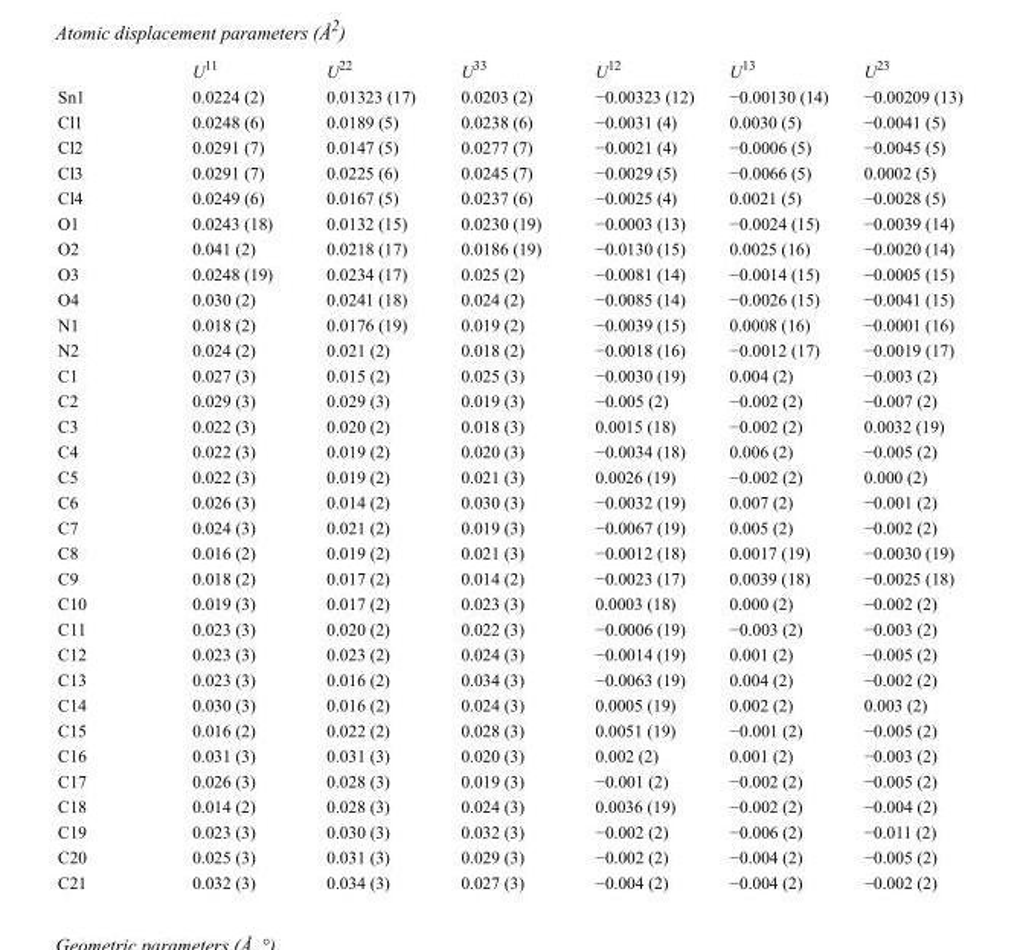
<table><thead><tr><td></td><td>U<sup>11</sup></td><td>U<sup>22</sup></td><td>U<sup>33</sup></td><td>U<sup>12</sup></td><td>U<sup>13</sup></td><td>U<sup>23</sup></td></tr></thead><tbody><tr><td>Sn1</td><td>0.0224 (2)</td><td>0.01323 (17)</td><td>0.0203 (2)</td><td>−0.00323 (12)</td><td>−0.00130 (14)</td><td>−0.00209 (13)</td></tr><tr><td>Cl1</td><td>0.0248 (6)</td><td>0.0189 (5)</td><td>0.0238 (6)</td><td>−0.0031 (4)</td><td>0.0030 (5)</td><td>−0.0041 (5)</td></tr><tr><td>Cl2</td><td>0.0291 (7)</td><td>0.0147 (5)</td><td>0.0277 (7)</td><td>−0.0021 (4)</td><td>−0.0006 (5)</td><td>−0.0045 (5)</td></tr><tr><td>Cl3</td><td>0.0291 (7)</td><td>0.0225 (6)</td><td>0.0245 (7)</td><td>−0.0029 (5)</td><td>−0.0066 (5)</td><td>0.0002 (5)</td></tr><tr><td>Cl4</td><td>0.0249 (6)</td><td>0.0167 (5)</td><td>0.0237 (6)</td><td>−0.0025 (4)</td><td>0.0021 (5)</td><td>−0.0028 (5)</td></tr><tr><td>O1</td><td>0.0243 (18)</td><td>0.0132 (15)</td><td>0.0230 (19)</td><td>−0.0003 (13)</td><td>−0.0024 (15)</td><td>−0.0039 (14)</td></tr><tr><td>O2</td><td>0.041 (2)</td><td>0.0218 (17)</td><td>0.0186 (19)</td><td>−0.0130 (15)</td><td>0.0025 (16)</td><td>−0.0020 (14)</td></tr><tr><td>O3</td><td>0.0248 (19)</td><td>0.0234 (17)</td><td>0.025 (2)</td><td>−0.0081 (14)</td><td>−0.0014 (15)</td><td>−0.0005 (15)</td></tr><tr><td>O4</td><td>0.030 (2)</td><td>0.0241 (18)</td><td>0.024 (2)</td><td>−0.0085 (14)</td><td>−0.0026 (15)</td><td>−0.0041 (15)</td></tr><tr><td>N1</td><td>0.018 (2)</td><td>0.0176 (19)</td><td>0.019 (2)</td><td>−0.0039 (15)</td><td>0.0008 (16)</td><td>−0.0001 (16)</td></tr><tr><td>N2</td><td>0.024 (2)</td><td>0.021 (2)</td><td>0.018 (2)</td><td>−0.0018 (16)</td><td>−0.0012 (17)</td><td>−0.0019 (17)</td></tr><tr><td>C1</td><td>0.027 (3)</td><td>0.015 (2)</td><td>0.025 (3)</td><td>−0.0030 (19)</td><td>0.004 (2)</td><td>−0.003 (2)</td></tr><tr><td>C2</td><td>0.029 (3)</td><td>0.029 (3)</td><td>0.019 (3)</td><td>−0.005 (2)</td><td>−0.002 (2)</td><td>−0.007 (2)</td></tr><tr><td>C3</td><td>0.022 (3)</td><td>0.020 (2)</td><td>0.018 (3)</td><td>0.0015 (18)</td><td>−0.002 (2)</td><td>0.0032 (19)</td></tr><tr><td>C4</td><td>0.022 (3)</td><td>0.019 (2)</td><td>0.020 (3)</td><td>−0.0034 (18)</td><td>0.006 (2)</td><td>−0.005 (2)</td></tr><tr><td>C5</td><td>0.022 (3)</td><td>0.019 (2)</td><td>0.021 (3)</td><td>0.0026 (19)</td><td>−0.002 (2)</td><td>0.000 (2)</td></tr><tr><td>C6</td><td>0.026 (3)</td><td>0.014 (2)</td><td>0.030 (3)</td><td>−0.0032 (19)</td><td>0.007 (2)</td><td>−0.001 (2)</td></tr><tr><td>C7</td><td>0.024 (3)</td><td>0.021 (2)</td><td>0.019 (3)</td><td>−0.0067 (19)</td><td>0.005 (2)</td><td>−0.002 (2)</td></tr><tr><td>C8</td><td>0.016 (2)</td><td>0.019 (2)</td><td>0.021 (3)</td><td>−0.0012 (18)</td><td>0.0017 (19)</td><td>−0.0030 (19)</td></tr><tr><td>C9</td><td>0.018 (2)</td><td>0.017 (2)</td><td>0.014 (2)</td><td>−0.0023 (17)</td><td>0.0039 (18)</td><td>−0.0025 (18)</td></tr><tr><td>C10</td><td>0.019 (3)</td><td>0.017 (2)</td><td>0.023 (3)</td><td>0.0003 (18)</td><td>0.000 (2)</td><td>−0.002 (2)</td></tr><tr><td>C11</td><td>0.023 (3)</td><td>0.020 (2)</td><td>0.022 (3)</td><td>−0.0006 (19)</td><td>−0.003 (2)</td><td>−0.003 (2)</td></tr><tr><td>C12</td><td>0.023 (3)</td><td>0.023 (2)</td><td>0.024 (3)</td><td>−0.0014 (19)</td><td>0.001 (2)</td><td>−0.005 (2)</td></tr><tr><td>C13</td><td>0.023 (3)</td><td>0.016 (2)</td><td>0.034 (3)</td><td>−0.0063 (19)</td><td>0.004 (2)</td><td>−0.002 (2)</td></tr><tr><td>C14</td><td>0.030 (3)</td><td>0.016 (2)</td><td>0.024 (3)</td><td>0.0005 (19)</td><td>0.002 (2)</td><td>0.003 (2)</td></tr><tr><td>C15</td><td>0.016 (2)</td><td>0.022 (2)</td><td>0.028 (3)</td><td>0.0051 (19)</td><td>−0.001 (2)</td><td>−0.005 (2)</td></tr><tr><td>C16</td><td>0.031 (3)</td><td>0.031 (3)</td><td>0.020 (3)</td><td>0.002 (2)</td><td>0.001 (2)</td><td>−0.003 (2)</td></tr><tr><td>C17</td><td>0.026 (3)</td><td>0.028 (3)</td><td>0.019 (3)</td><td>−0.001 (2)</td><td>−0.002 (2)</td><td>−0.005 (2)</td></tr><tr><td>C18</td><td>0.014 (2)</td><td>0.028 (3)</td><td>0.024 (3)</td><td>0.0036 (19)</td><td>−0.002 (2)</td><td>−0.004 (2)</td></tr><tr><td>C19</td><td>0.023 (3)</td><td>0.030 (3)</td><td>0.032 (3)</td><td>−0.002 (2)</td><td>−0.006 (2)</td><td>−0.011 (2)</td></tr><tr><td>C20</td><td>0.025 (3)</td><td>0.031 (3)</td><td>0.029 (3)</td><td>−0.002 (2)</td><td>−0.004 (2)</td><td>−0.005 (2)</td></tr><tr><td>C21</td><td>0.032 (3)</td><td>0.034 (3)</td><td>0.027 (3)</td><td>−0.004 (2)</td><td>−0.004 (2)</td><td>−0.002 (2)</td></tr></tbody></table>